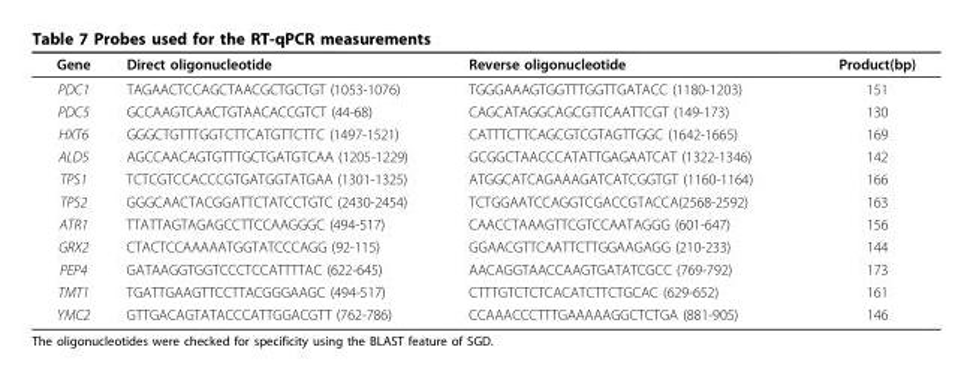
<table><thead><tr><td>Gene</td><td>Direct oligonucleotide</td><td>Reverse oligonucleotide</td><td>Product(bp)</td></tr></thead><tbody><tr><td>PDC1</td><td>TAGAACTCCAGCTAACGCTGCTGT (1053-1076)</td><td>TGGGAAAGTGGTTTGGTTGATACC (1180-1203)</td><td>151</td></tr><tr><td>PDC5</td><td>GCCAAGTCAACTGTAACACCGTCT (44-68)</td><td>CAGCATAGGCAGCGTTCAATTCGT (149-173)</td><td>130</td></tr><tr><td>HXT6</td><td>GGGCTGTTTGGTCTTCATGTTCTTC (1497-1521)</td><td>CATTTCTTCAGCGTCGTAGTTGGC (1642-1665)</td><td>169</td></tr><tr><td>ALD5</td><td>AGCCAACAGTGTTTGCTGATGTCAA (1205-1229)</td><td>GCGGCTAACCCATATTGAGAATCAT (1322-1346)</td><td>142</td></tr><tr><td>TPS1</td><td>TCTCGTCCACCCGTGATGGTATGAA (1301-1325)</td><td>ATGGCATCAGAAAGATCATCGGTGT (1160-1164)</td><td>166</td></tr><tr><td>TPS2</td><td>GGGCAACTACGGATTCTATCCTGTC (2430-2454)</td><td>TCTGGAATCCAGGTCGACCGTACCA(2568-2592)</td><td>163</td></tr><tr><td>ATR1</td><td>TTATTAGTAGAGCCTTCCAAGGGC (494-517)</td><td>CAACCTAAAGTTCGTCCAATAGGG (601-647)</td><td>156</td></tr><tr><td>GRX2</td><td>CTACTCCAAAAATGGTATCCCAGG (92-115)</td><td>GGAACGTTCAATTCTTGGAAGAGG (210-233)</td><td>144</td></tr><tr><td>PEP4</td><td>GATAAGGTGGTCCCTCCATTTTAC (622-645)</td><td>AACAGGTAACCAAGTGATATCGCC (769-792)</td><td>173</td></tr><tr><td>TMT1</td><td>TGATTGAAGTTCCTTACGGGAAGC (494-517)</td><td>CTTTGTCTCTCACATCTTCTGCAC (629-652)</td><td>161</td></tr><tr><td>YMC2</td><td>GTTGACAGTATACCCATTGGACGTT (762-786)</td><td>CCAAACCCTTTGAAAAAGGCTCTGA (881-905)</td><td>146</td></tr></tbody></table>